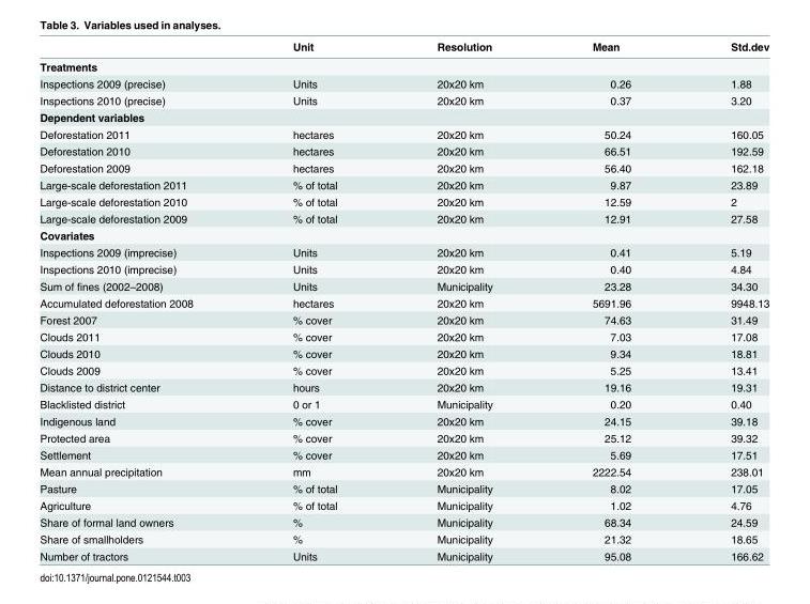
<table><thead><tr><td></td><td>Unit</td><td>Resolution</td><td>Mean</td><td>Std.dev</td></tr></thead><tbody><tr><td colspan="5">Treatments</td></tr><tr><td>Inspections 2009 (precise)</td><td>Units</td><td>20x20 km</td><td>0.26</td><td>1.88</td></tr><tr><td>Inspections 2010 (precise)</td><td>Units</td><td>20x20 km</td><td>0.37</td><td>3.20</td></tr><tr><td colspan="5">Dependent variables</td></tr><tr><td>Deforestation 2011</td><td>hectares</td><td>20x20 km</td><td>50.24</td><td>160.05</td></tr><tr><td>Deforestation 2010</td><td>hectares</td><td>20x20 km</td><td>66.51</td><td>192.59</td></tr><tr><td>Deforestation 2009</td><td>hectares</td><td>20x20 km</td><td>56.40</td><td>162.18</td></tr><tr><td>Large-scale deforestation 2011</td><td>% of total</td><td>20x20 km</td><td>9.87</td><td>23.89</td></tr><tr><td>Large-scale deforestation 2010</td><td>% of total</td><td>20x20 km</td><td>12.59</td><td>2</td></tr><tr><td>Large-scale deforestation 2009</td><td>% of total</td><td>20x20 km</td><td>12.91</td><td>27.58</td></tr><tr><td colspan="5">Covariates</td></tr><tr><td>Inspections 2009 (imprecise)</td><td>Units</td><td>20x20 km</td><td>0.41</td><td>5.19</td></tr><tr><td>Inspections 2010 (imprecise)</td><td>Units</td><td>20x20 km</td><td>0.40</td><td>4.84</td></tr><tr><td>Sum of fines (2002–2008)</td><td>Units</td><td>Municipality</td><td>23.28</td><td>34.30</td></tr><tr><td>Accumulated deforestation 2008</td><td>hectares</td><td>20x20 km</td><td>5691.96</td><td>9948.13</td></tr><tr><td>Forest 2007</td><td>% cover</td><td>20x20 km</td><td>74.63</td><td>31.49</td></tr><tr><td>Clouds 2011</td><td>% cover</td><td>20x20 km</td><td>7.03</td><td>17.08</td></tr><tr><td>Clouds 2010</td><td>% cover</td><td>20x20 km</td><td>9.34</td><td>18.81</td></tr><tr><td>Clouds 2009</td><td>% cover</td><td>20x20 km</td><td>5.25</td><td>13.41</td></tr><tr><td>Distance to district center</td><td>hours</td><td>20x20 km</td><td>19.16</td><td>19.31</td></tr><tr><td>Blacklisted district</td><td>0 or 1</td><td>Municipality</td><td>0.20</td><td>0.40</td></tr><tr><td>Indigenous land</td><td>% cover</td><td>20x20 km</td><td>24.15</td><td>39.18</td></tr><tr><td>Protected area</td><td>% cover</td><td>20x20 km</td><td>25.12</td><td>39.32</td></tr><tr><td>Settlement</td><td>% cover</td><td>20x20 km</td><td>5.69</td><td>17.51</td></tr><tr><td>Mean annual precipitation</td><td>mm</td><td>20x20 km</td><td>2222.54</td><td>238.01</td></tr><tr><td>Pasture</td><td>% of total</td><td>Municipality</td><td>8.02</td><td>17.05</td></tr><tr><td>Agriculture</td><td>% of total</td><td>Municipality</td><td>1.02</td><td>4.76</td></tr><tr><td>Share of formal land owners</td><td>%</td><td>Municipality</td><td>68.34</td><td>24.59</td></tr><tr><td>Share of smallholders</td><td>%</td><td>Municipality</td><td>21.32</td><td>18.65</td></tr><tr><td>Number of tractors</td><td>Units</td><td>Municipality</td><td>95.08</td><td>166.62</td></tr></tbody></table>